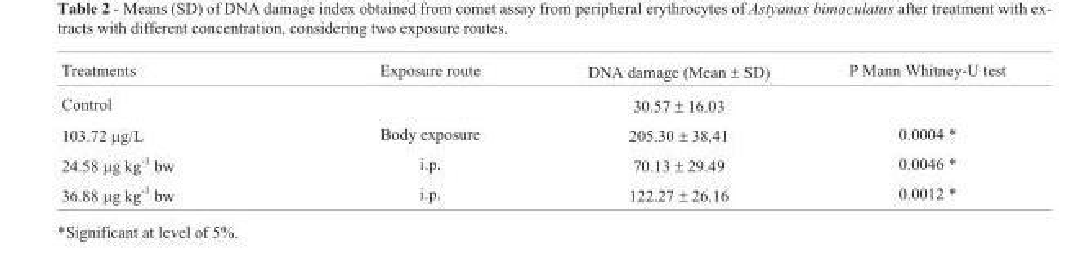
<table><thead><tr><td>Treatments</td><td>Exposure route</td><td>DNA damage (Mean ± SD)</td><td>P Mann Whitney-U test</td></tr></thead><tbody><tr><td>Control</td><td></td><td>30.57 ± 16.03</td><td></td></tr><tr><td>103.72 μg/L</td><td>Body exposure</td><td>205.30 ± 38.41</td><td>0.0004 *</td></tr><tr><td>24.58 μg kg<sup>-1</sup> bw</td><td>i.p.</td><td>70.13 ± 29.49</td><td>0.0046 *</td></tr><tr><td>36.88 μg kg<sup>-1</sup> bw</td><td>i.p.</td><td>122.27 ± 26.16</td><td>0.0012 *</td></tr></tbody></table>